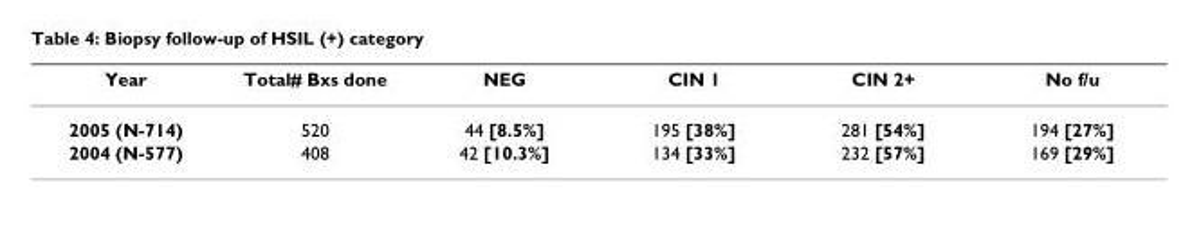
<table><thead><tr><td>Year</td><td>Total# Bxs done</td><td>NEG</td><td>CIN 1</td><td>CIN 2+</td><td>No f/u</td></tr></thead><tbody><tr><td>2005 (N-714)</td><td>520</td><td>44 [8.5%]</td><td>195 [38%]</td><td>281 [54%]</td><td>194 [27%]</td></tr><tr><td>2004 (N-577)</td><td>408</td><td>42 [10.3%]</td><td>134 [33%]</td><td>232 [57%]</td><td>169 [29%]</td></tr></tbody></table>